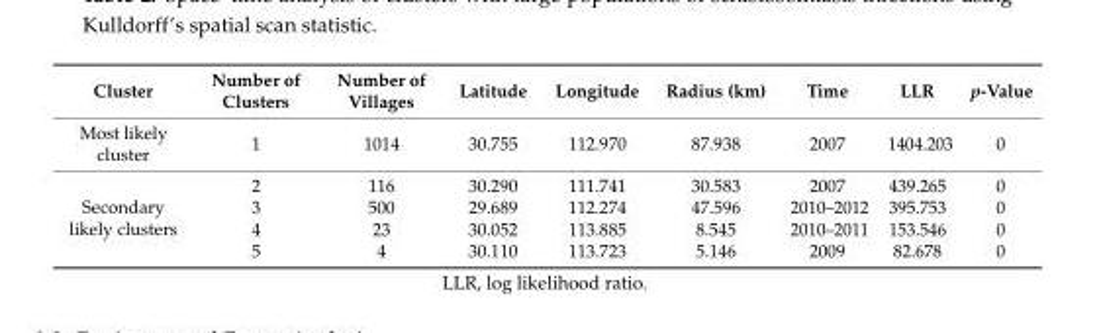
<table><thead><tr><td>Cluster</td><td>Number of Clusters</td><td>Number of Villages</td><td>Latitude</td><td>Longitude</td><td>Radius (km)</td><td>Time</td><td>LLR</td><td>p-Value</td></tr></thead><tbody><tr><td>Most likely cluster</td><td>1</td><td>1014</td><td>30.755</td><td>112.970</td><td>87.938</td><td>2007</td><td>1404.203</td><td>0</td></tr><tr><td rowspan="4">Secondary likely clusters</td><td>2</td><td>116</td><td>30.290</td><td>111.741</td><td>30.583</td><td>2007</td><td>439.265</td><td>0</td></tr><tr><td>3</td><td>500</td><td>29.689</td><td>112.274</td><td>47.596</td><td>2010–2012</td><td>395.753</td><td>0</td></tr><tr><td>4</td><td>23</td><td>30.052</td><td>113.885</td><td>8.545</td><td>2010–2011</td><td>153.546</td><td>0</td></tr><tr><td>5</td><td>4</td><td>30.110</td><td>113.723</td><td>5.146</td><td>2009</td><td>82.678</td><td>0</td></tr></tbody></table>